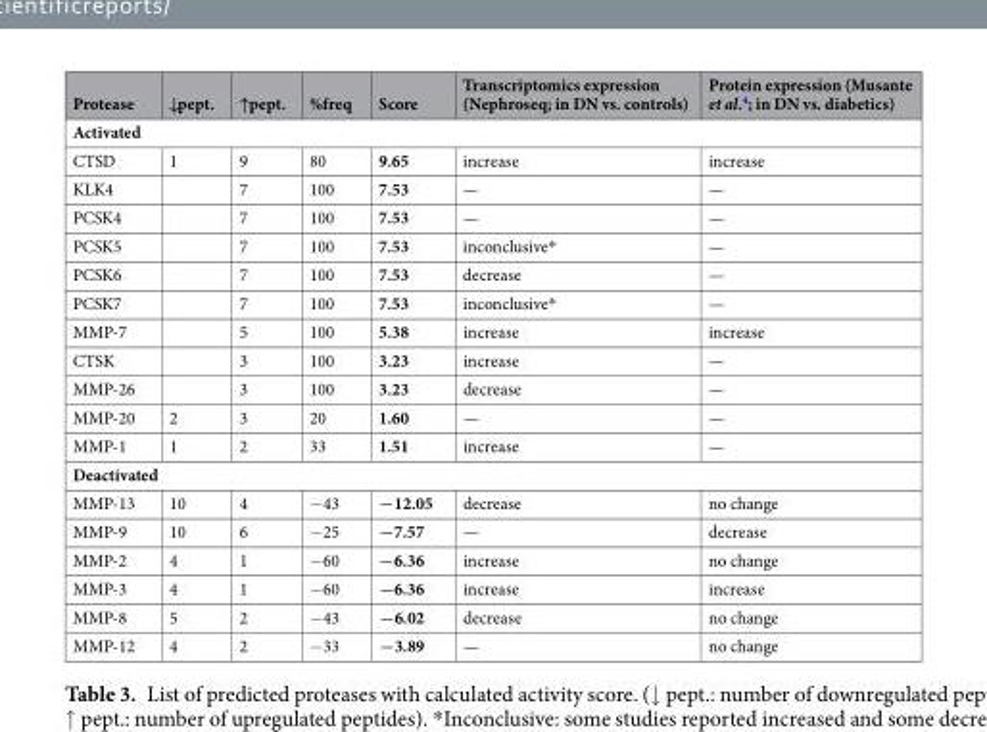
<table><thead><tr><td>Protease</td><td>↓pept.</td><td>↑pept.</td><td>%freq</td><td>Score</td><td>Transcriptomics expression (Nephroseq; in DN vs. controls)</td><td>Protein expression (Musante et al.<sup>4</sup>; in DN vs. diabetics)</td></tr></thead><tbody><tr><td colspan="7">Activated</td></tr><tr><td>CTSD</td><td>1</td><td>9</td><td>80</td><td>9.65</td><td>increase</td><td>increase</td></tr><tr><td>KLK4</td><td></td><td>7</td><td>100</td><td>7.53</td><td>—</td><td>—</td></tr><tr><td>PCSK4</td><td></td><td>7</td><td>100</td><td>7.53</td><td>—</td><td>—</td></tr><tr><td>PCSK5</td><td></td><td>7</td><td>100</td><td>7.53</td><td>inconclusive*</td><td>—</td></tr><tr><td>PCSK6</td><td></td><td>7</td><td>100</td><td>7.53</td><td>decrease</td><td>—</td></tr><tr><td>PCSK7</td><td></td><td>7</td><td>100</td><td>7.53</td><td>inconclusive*</td><td>—</td></tr><tr><td>MMP-7</td><td></td><td>5</td><td>100</td><td>5.38</td><td>increase</td><td>increase</td></tr><tr><td>CTSK</td><td></td><td>3</td><td>100</td><td>3.23</td><td>increase</td><td>—</td></tr><tr><td>MMP-26</td><td></td><td>3</td><td>100</td><td>3.23</td><td>decrease</td><td>—</td></tr><tr><td>MMP-20</td><td>2</td><td>3</td><td>20</td><td>1.60</td><td>—</td><td>—</td></tr><tr><td>MMP-1</td><td>1</td><td>2</td><td>33</td><td>1.51</td><td>increase</td><td>—</td></tr><tr><td colspan="7">Deactivated</td></tr><tr><td>MMP-13</td><td>10</td><td>4</td><td>−43</td><td>−12.05</td><td>decrease</td><td>no change</td></tr><tr><td>MMP-9</td><td>10</td><td>6</td><td>−25</td><td>−7.57</td><td>—</td><td>decrease</td></tr><tr><td>MMP-2</td><td>4</td><td>1</td><td>−60</td><td>−6.36</td><td>increase</td><td>no change</td></tr><tr><td>MMP-3</td><td>4</td><td>1</td><td>−60</td><td>−6.36</td><td>increase</td><td>increase</td></tr><tr><td>MMP-8</td><td>5</td><td>2</td><td>−43</td><td>−6.02</td><td>decrease</td><td>no change</td></tr><tr><td>MMP-12</td><td>4</td><td>2</td><td>−33</td><td>−3.89</td><td>—</td><td>no change</td></tr></tbody></table>